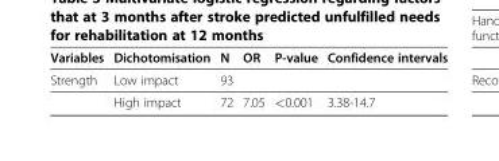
<table><thead><tr><td>Variables</td><td>Dichotomisation</td><td>N</td><td>OR</td><td>P-value</td><td>Confidence intervals</td></tr></thead><tbody><tr><td rowspan="2">Strength</td><td>Low impact</td><td>93</td><td></td><td></td><td></td></tr><tr><td>High impact</td><td>72</td><td>7.05</td><td>&lt;0.001</td><td>3.38-14.7</td></tr></tbody></table>